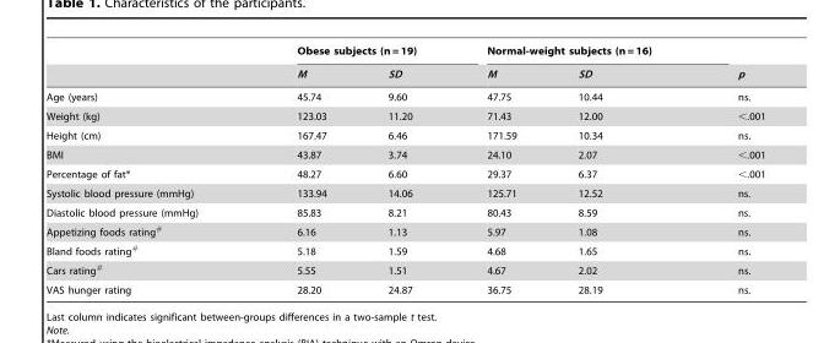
<table><thead><tr><td rowspan="2"></td><td colspan="2">Obese subjects (n = 19)</td><td colspan="2">Normal-weight subjects (n = 16)</td><td rowspan="2">p</td></tr><tr><td>M</td><td>SD</td><td>M</td><td>SD</td></tr></thead><tbody><tr><td>Age (years)</td><td>45.74</td><td>9.60</td><td>47.75</td><td>10.44</td><td>ns.</td></tr><tr><td>Weight (kg)</td><td>123.03</td><td>11.20</td><td>71.43</td><td>12.00</td><td>&lt;.001</td></tr><tr><td>Height (cm)</td><td>167.47</td><td>6.46</td><td>171.59</td><td>10.34</td><td>ns.</td></tr><tr><td>BMI</td><td>43.87</td><td>3.74</td><td>24.10</td><td>2.07</td><td>&lt;.001</td></tr><tr><td>Percentage of fat*</td><td>48.27</td><td>6.60</td><td>29.37</td><td>6.37</td><td>&lt;.001</td></tr><tr><td>Systolic blood pressure (mmHg)</td><td>133.94</td><td>14.06</td><td>125.71</td><td>12.52</td><td>ns.</td></tr><tr><td>Diastolic blood pressure (mmHg)</td><td>85.83</td><td>8.21</td><td>80.43</td><td>8.59</td><td>ns.</td></tr><tr><td>Appetizing foods rating#</td><td>6.16</td><td>1.13</td><td>5.97</td><td>1.08</td><td>ns.</td></tr><tr><td>Bland foods rating#</td><td>5.18</td><td>1.59</td><td>4.68</td><td>1.65</td><td>ns.</td></tr><tr><td>Cars rating#</td><td>5.55</td><td>1.51</td><td>4.67</td><td>2.02</td><td>ns.</td></tr><tr><td>VAS hunger rating</td><td>28.20</td><td>24.87</td><td>36.75</td><td>28.19</td><td>ns.</td></tr></tbody></table>